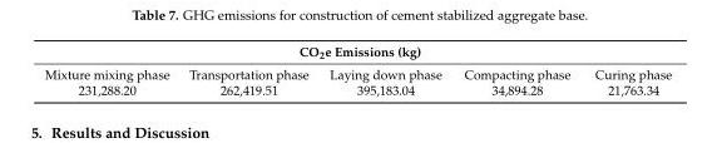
<table><thead><tr><td colspan="5">CO<sub>2</sub>e Emissions (kg)</td></tr><tr><td>Mixture mixing phase</td><td>Transportation phase</td><td>Laying down phase</td><td>Compacting phase</td><td>Curing phase</td></tr></thead><tbody><tr><td>231,288.20</td><td>262,419.51</td><td>395,183.04</td><td>34,894.28</td><td>21,763.34</td></tr></tbody></table>